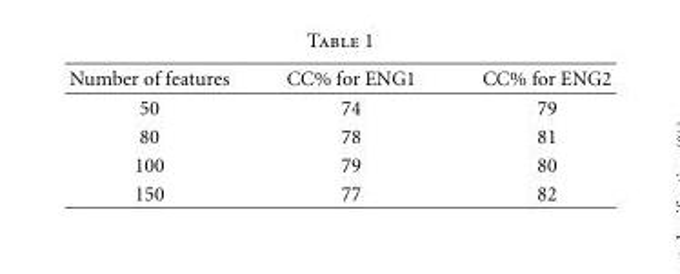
<table><thead><tr><td>Number of features</td><td>CC% for ENG1</td><td>CC% for ENG2</td></tr></thead><tbody><tr><td>50</td><td>74</td><td>79</td></tr><tr><td>80</td><td>78</td><td>81</td></tr><tr><td>100</td><td>79</td><td>80</td></tr><tr><td>150</td><td>77</td><td>82</td></tr></tbody></table>